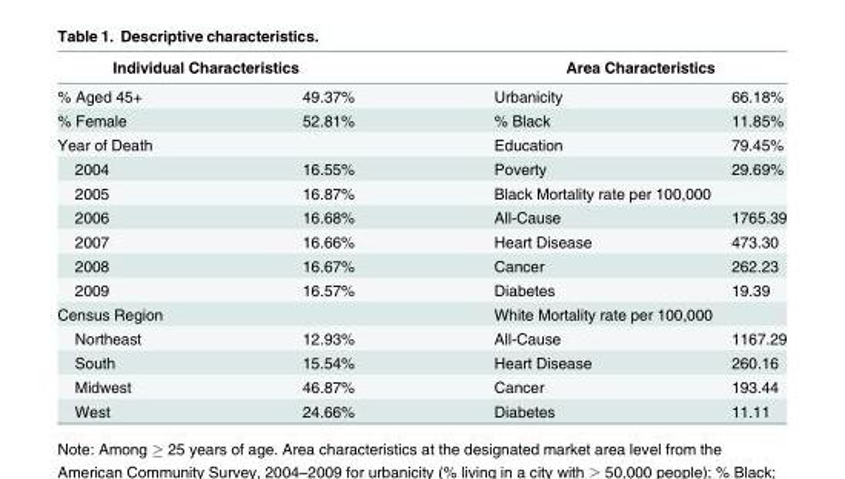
<table><thead><tr><td colspan="2">Individual Characteristics</td><td colspan="2">Area Characteristics</td></tr><tr><td>% Aged 45+</td><td>49.37%</td><td>Urbanicity</td><td>66.18%</td></tr></thead><tbody><tr><td>% Female</td><td>52.81%</td><td>% Black</td><td>11.85%</td></tr><tr><td>Year of Death</td><td></td><td>Education</td><td>79.45%</td></tr><tr><td>2004</td><td>16.55%</td><td>Poverty</td><td>29.69%</td></tr><tr><td>2005</td><td>16.87%</td><td colspan="2">Black Mortality rate per 100,000</td></tr><tr><td>2006</td><td>16.68%</td><td>All-Cause</td><td>1765.39</td></tr><tr><td>2007</td><td>16.66%</td><td>Heart Disease</td><td>473.30</td></tr><tr><td>2008</td><td>16.67%</td><td>Cancer</td><td>262.23</td></tr><tr><td>2009</td><td>16.57%</td><td>Diabetes</td><td>19.39</td></tr><tr><td>Census Region</td><td></td><td colspan="2">White Mortality rate per 100,000</td></tr><tr><td>Northeast</td><td>12.93%</td><td>All-Cause</td><td>1167.29</td></tr><tr><td>South</td><td>15.54%</td><td>Heart Disease</td><td>260.16</td></tr><tr><td>Midwest</td><td>46.87%</td><td>Cancer</td><td>193.44</td></tr><tr><td>West</td><td>24.66%</td><td>Diabetes</td><td>11.11</td></tr></tbody></table>